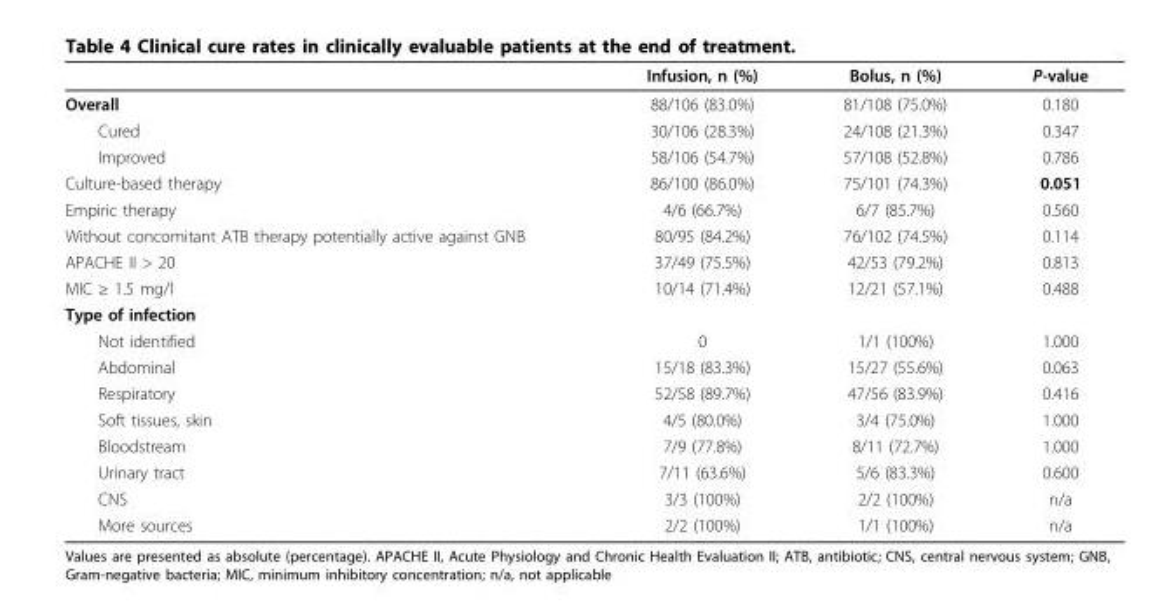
<table><thead><tr><td></td><td>Infusion, n (%)</td><td>Bolus, n (%)</td><td>P-value</td></tr></thead><tbody><tr><td>Overall</td><td>88/106 (83.0%)</td><td>81/108 (75.0%)</td><td>0.180</td></tr><tr><td>Cured</td><td>30/106 (28.3%)</td><td>24/108 (21.3%)</td><td>0.347</td></tr><tr><td>Improved</td><td>58/106 (54.7%)</td><td>57/108 (52.8%)</td><td>0.786</td></tr><tr><td>Culture-based therapy</td><td>86/100 (86.0%)</td><td>75/101 (74.3%)</td><td>0.051</td></tr><tr><td>Empiric therapy</td><td>4/6 (66.7%)</td><td>6/7 (85.7%)</td><td>0.560</td></tr><tr><td>Without concomitant ATB therapy potentially active against GNB</td><td>80/95 (84.2%)</td><td>76/102 (74.5%)</td><td>0.114</td></tr><tr><td>APACHE II &gt; 20</td><td>37/49 (75.5%)</td><td>42/53 (79.2%)</td><td>0.813</td></tr><tr><td>MIC ≥ 1.5 mg/l</td><td>10/14 (71.4%)</td><td>12/21 (57.1%)</td><td>0.488</td></tr><tr><td colspan="4">Type of infection</td></tr><tr><td>Not identified</td><td>0</td><td>1/1 (100%)</td><td>1.000</td></tr><tr><td>Abdominal</td><td>15/18 (83.3%)</td><td>15/27 (55.6%)</td><td>0.063</td></tr><tr><td>Respiratory</td><td>52/58 (89.7%)</td><td>47/56 (83.9%)</td><td>0.416</td></tr><tr><td>Soft tissues, skin</td><td>4/5 (80.0%)</td><td>3/4 (75.0%)</td><td>1.000</td></tr><tr><td>Bloodstream</td><td>7/9 (77.8%)</td><td>8/11 (72.7%)</td><td>1.000</td></tr><tr><td>Urinary tract</td><td>7/11 (63.6%)</td><td>5/6 (83.3%)</td><td>0.600</td></tr><tr><td>CNS</td><td>3/3 (100%)</td><td>2/2 (100%)</td><td>n/a</td></tr><tr><td>More sources</td><td>2/2 (100%)</td><td>1/1 (100%)</td><td>n/a</td></tr></tbody></table>